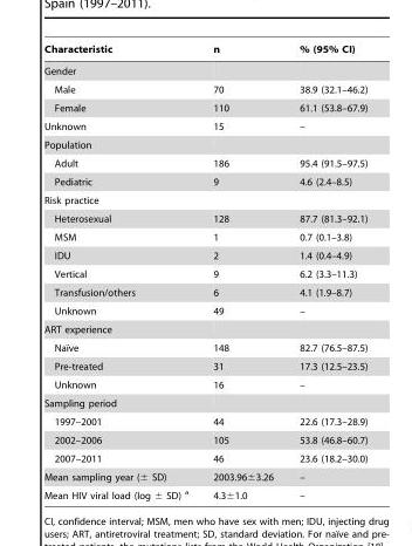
<table><thead><tr><td>Characteristic</td><td>n</td><td>% (95% CI)</td></tr></thead><tbody><tr><td colspan="3">Gender</td></tr><tr><td>Male</td><td>70</td><td>38.9 (32.1–46.2)</td></tr><tr><td>Female</td><td>110</td><td>61.1 (53.8–67.9)</td></tr><tr><td>Unknown</td><td>15</td><td>–</td></tr><tr><td colspan="3">Population</td></tr><tr><td>Adult</td><td>186</td><td>95.4 (91.5–97.5)</td></tr><tr><td>Pediatric</td><td>9</td><td>4.6 (2.4–8.5)</td></tr><tr><td colspan="3">Risk practice</td></tr><tr><td>Heterosexual</td><td>128</td><td>87.7 (81.3–92.1)</td></tr><tr><td>MSM</td><td>1</td><td>0.7 (0.1–3.8)</td></tr><tr><td>IDU</td><td>2</td><td>1.4 (0.4–4.9)</td></tr><tr><td>Vertical</td><td>9</td><td>6.2 (3.3–11.3)</td></tr><tr><td>Transfusion/others</td><td>6</td><td>4.1 (1.9–8.7)</td></tr><tr><td>Unknown</td><td>49</td><td>–</td></tr><tr><td colspan="3">ART experience</td></tr><tr><td>Naı¨ve</td><td>148</td><td>82.7 (76.5–87.5)</td></tr><tr><td>Pre-treated</td><td>31</td><td>17.3 (12.5–23.5)</td></tr><tr><td>Unknown</td><td>16</td><td>–</td></tr><tr><td colspan="3">Sampling period</td></tr><tr><td>1997–2001</td><td>44</td><td>22.6 (17.3–28.9)</td></tr><tr><td>2002–2006</td><td>105</td><td>53.8 (46.8–60.7)</td></tr><tr><td>2007–2011</td><td>46</td><td>23.6 (18.2–30.0)</td></tr><tr><td>Mean sampling year (± SD)</td><td>2003.96±3.26</td><td>–</td></tr><tr><td>Mean HIV viral load (log ± SD) a</td><td>4.3±1.0</td><td>–</td></tr></tbody></table>